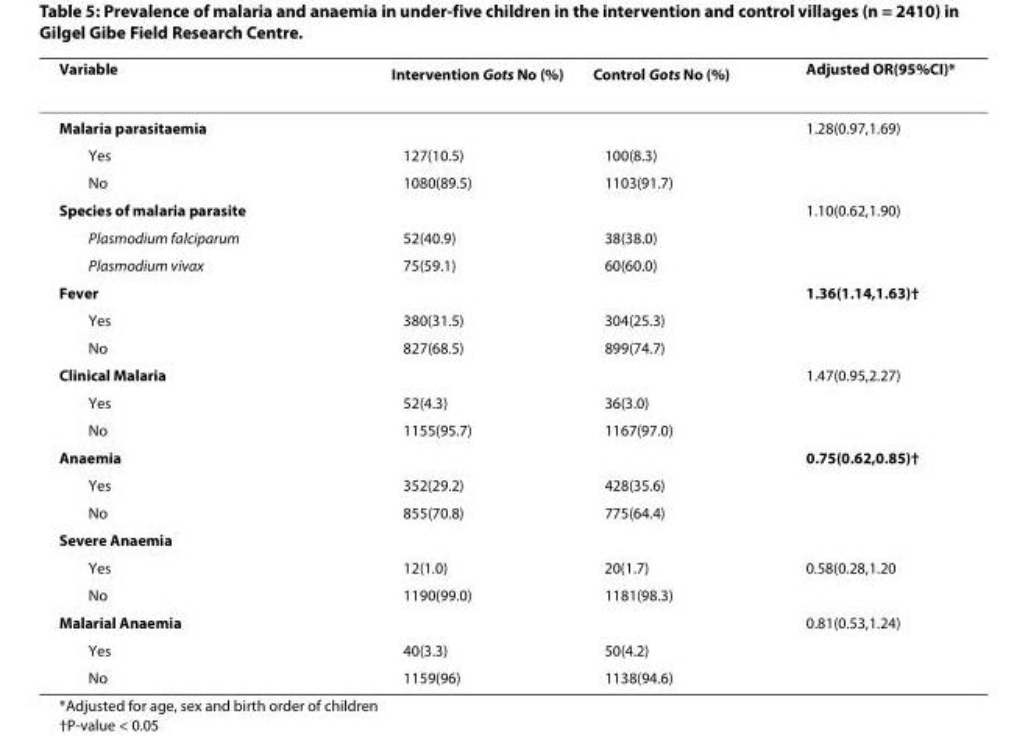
<table><thead><tr><td>Variable</td><td>Intervention Gots No (%)</td><td>Control Gots No (%)</td><td>Adjusted OR(95%CI)*</td></tr></thead><tbody><tr><td>Malaria parasitaemia</td><td></td><td></td><td>1.28(0.97,1.69)</td></tr><tr><td>Yes</td><td>127(10.5)</td><td>100(8.3)</td><td></td></tr><tr><td>No</td><td>1080(89.5)</td><td>1103(91.7)</td><td></td></tr><tr><td>Species of malaria parasite</td><td></td><td></td><td>1.10(0.62,1.90)</td></tr><tr><td>Plasmodium falciparum</td><td>52(40.9)</td><td>38(38.0)</td><td></td></tr><tr><td>Plasmodium vivax</td><td>75(59.1)</td><td>60(60.0)</td><td></td></tr><tr><td>Fever</td><td></td><td></td><td>1.36(1.14,1.63)†</td></tr><tr><td>Yes</td><td>380(31.5)</td><td>304(25.3)</td><td></td></tr><tr><td>No</td><td>827(68.5)</td><td>899(74.7)</td><td></td></tr><tr><td>Clinical Malaria</td><td></td><td></td><td>1.47(0.95,2.27)</td></tr><tr><td>Yes</td><td>52(4.3)</td><td>36(3.0)</td><td></td></tr><tr><td>No</td><td>1155(95.7)</td><td>1167(97.0)</td><td></td></tr><tr><td>Anaemia</td><td></td><td></td><td>0.75(0.62,0.85)†</td></tr><tr><td>Yes</td><td>352(29.2)</td><td>428(35.6)</td><td></td></tr><tr><td>No</td><td>855(70.8)</td><td>775(64.4)</td><td></td></tr><tr><td colspan="4">Severe Anaemia</td></tr><tr><td>Yes</td><td>12(1.0)</td><td>20(1.7)</td><td>0.58(0.28,1.20</td></tr><tr><td>No</td><td>1190(99.0)</td><td>1181(98.3)</td><td></td></tr><tr><td>Malarial Anaemia</td><td></td><td></td><td>0.81(0.53,1.24)</td></tr><tr><td>Yes</td><td>40(3.3)</td><td>50(4.2)</td><td></td></tr><tr><td>No</td><td>1159(96)</td><td>1138(94.6)</td><td></td></tr></tbody></table>